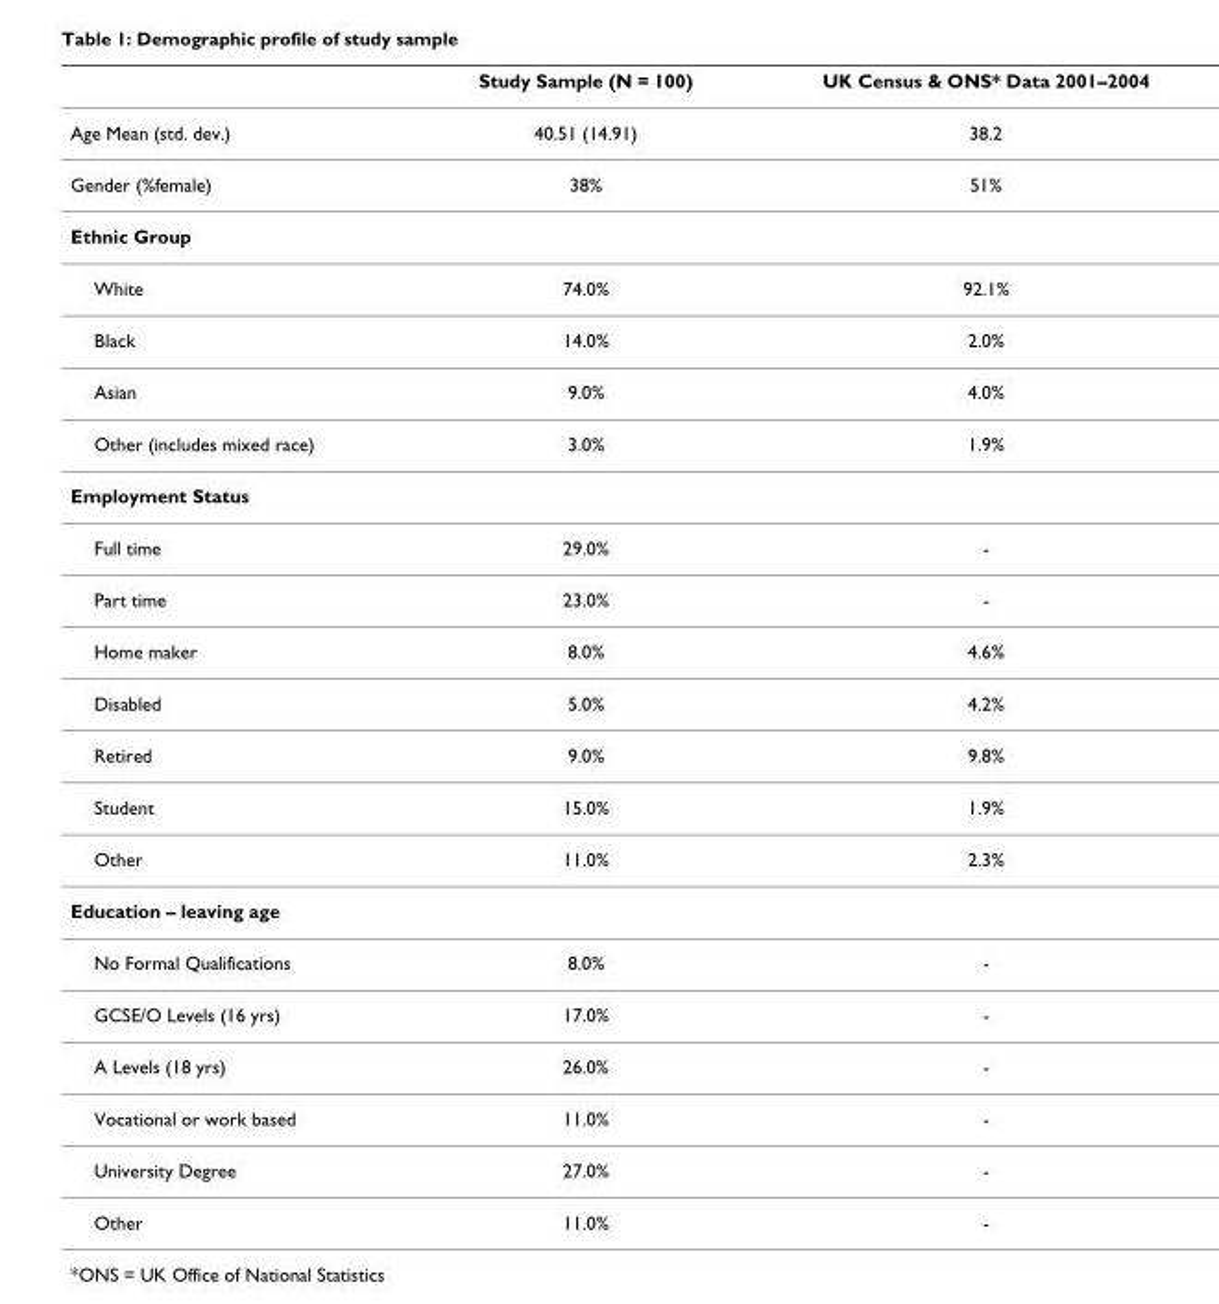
<table><thead><tr><td></td><td>Study Sample (N = 100)</td><td>UK Census &amp; ONS* Data 2001–2004</td></tr></thead><tbody><tr><td>Age Mean (std. dev.)</td><td>40.51 (14.91)</td><td>38.2</td></tr><tr><td>Gender (%female)</td><td>38%</td><td>51%</td></tr><tr><td colspan="3">Ethnic Group</td></tr><tr><td>White</td><td>74.0%</td><td>92.1%</td></tr><tr><td>Black</td><td>14.0%</td><td>2.0%</td></tr><tr><td>Asian</td><td>9.0%</td><td>4.0%</td></tr><tr><td>Other (includes mixed race)</td><td>3.0%</td><td>1.9%</td></tr><tr><td colspan="3">Employment Status</td></tr><tr><td>Full time</td><td>29.0%</td><td>-</td></tr><tr><td>Part time</td><td>23.0%</td><td>-</td></tr><tr><td>Home maker</td><td>8.0%</td><td>4.6%</td></tr><tr><td>Disabled</td><td>5.0%</td><td>4.2%</td></tr><tr><td>Retired</td><td>9.0%</td><td>9.8%</td></tr><tr><td>Student</td><td>15.0%</td><td>1.9%</td></tr><tr><td>Other</td><td>11.0%</td><td>2.3%</td></tr><tr><td colspan="3">Education – leaving age</td></tr><tr><td>No Formal Qualifications</td><td>8.0%</td><td>-</td></tr><tr><td>GCSE/O Levels (16 yrs)</td><td>17.0%</td><td>-</td></tr><tr><td>A Levels (18 yrs)</td><td>26.0%</td><td>-</td></tr><tr><td>Vocational or work based</td><td>11.0%</td><td>-</td></tr><tr><td>University Degree</td><td>27.0%</td><td>-</td></tr><tr><td>Other</td><td>11.0%</td><td>-</td></tr></tbody></table>